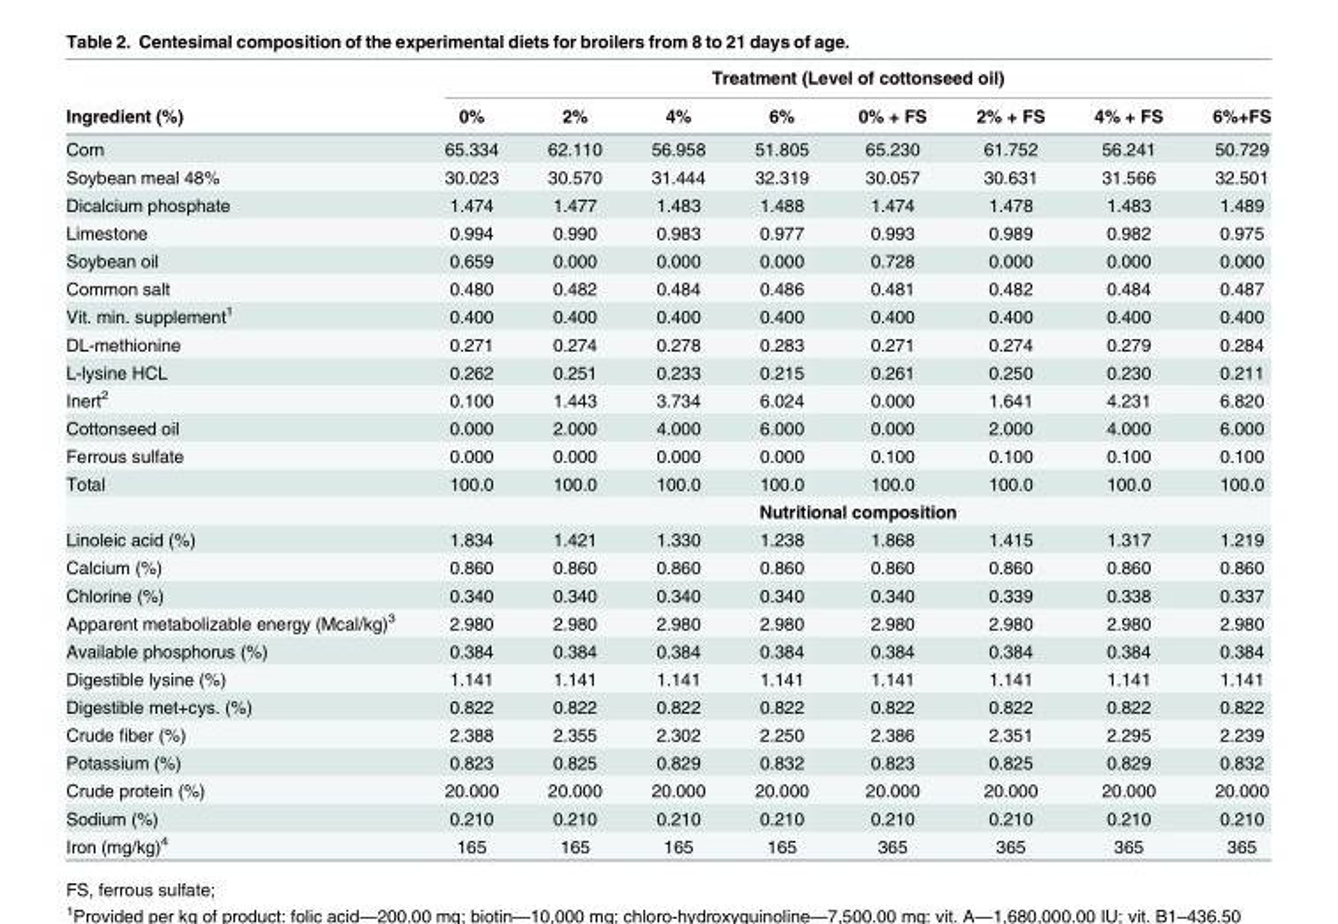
<table><thead><tr><td rowspan="2">Ingredient (%)</td><td colspan="8">Treatment (Level of cottonseed oil)</td></tr><tr><td>0%</td><td>2%</td><td>4%</td><td>6%</td><td>0% + FS</td><td>2% + FS</td><td>4% + FS</td><td>6%+FS</td></tr></thead><tbody><tr><td>Corn</td><td>65.334</td><td>62.110</td><td>56.958</td><td>51.805</td><td>65.230</td><td>61.752</td><td>56.241</td><td>50.729</td></tr><tr><td>Soybean meal 48%</td><td>30.023</td><td>30.570</td><td>31.444</td><td>32.319</td><td>30.057</td><td>30.631</td><td>31.566</td><td>32.501</td></tr><tr><td>Dicalcium phosphate</td><td>1.474</td><td>1.477</td><td>1.483</td><td>1.488</td><td>1.474</td><td>1.478</td><td>1.483</td><td>1.489</td></tr><tr><td>Limestone</td><td>0.994</td><td>0.990</td><td>0.983</td><td>0.977</td><td>0.993</td><td>0.989</td><td>0.982</td><td>0.975</td></tr><tr><td>Soybean oil</td><td>0.659</td><td>0.000</td><td>0.000</td><td>0.000</td><td>0.728</td><td>0.000</td><td>0.000</td><td>0.000</td></tr><tr><td>Common salt</td><td>0.480</td><td>0.482</td><td>0.484</td><td>0.486</td><td>0.481</td><td>0.482</td><td>0.484</td><td>0.487</td></tr><tr><td>Vit. min. supplement<sup>1</sup></td><td>0.400</td><td>0.400</td><td>0.400</td><td>0.400</td><td>0.400</td><td>0.400</td><td>0.400</td><td>0.400</td></tr><tr><td>DL-methionine</td><td>0.271</td><td>0.274</td><td>0.278</td><td>0.283</td><td>0.271</td><td>0.274</td><td>0.279</td><td>0.284</td></tr><tr><td>L-lysine HCL</td><td>0.262</td><td>0.251</td><td>0.233</td><td>0.215</td><td>0.261</td><td>0.250</td><td>0.230</td><td>0.211</td></tr><tr><td>Inert<sup>2</sup></td><td>0.100</td><td>1.443</td><td>3.734</td><td>6.024</td><td>0.000</td><td>1.641</td><td>4.231</td><td>6.820</td></tr><tr><td>Cottonseed oil</td><td>0.000</td><td>2.000</td><td>4.000</td><td>6.000</td><td>0.000</td><td>2.000</td><td>4.000</td><td>6.000</td></tr><tr><td>Ferrous sulfate</td><td>0.000</td><td>0.000</td><td>0.000</td><td>0.000</td><td>0.100</td><td>0.100</td><td>0.100</td><td>0.100</td></tr><tr><td rowspan="2">Total</td><td>100.0</td><td>100.0</td><td>100.0</td><td>100.0</td><td>100.0</td><td>100.0</td><td>100.0</td><td>100.0</td></tr><tr><td colspan="8">Nutritional composition</td></tr><tr><td>Linoleic acid (%)</td><td>1.834</td><td>1.421</td><td>1.330</td><td>1.238</td><td>1.868</td><td>1.415</td><td>1.317</td><td>1.219</td></tr><tr><td>Calcium (%)</td><td>0.860</td><td>0.860</td><td>0.860</td><td>0.860</td><td>0.860</td><td>0.860</td><td>0.860</td><td>0.860</td></tr><tr><td>Chlorine (%)</td><td>0.340</td><td>0.340</td><td>0.340</td><td>0.340</td><td>0.340</td><td>0.339</td><td>0.338</td><td>0.337</td></tr><tr><td>Apparent metabolizable energy (Mcal/kg)<sup>3</sup></td><td>2.980</td><td>2.980</td><td>2.980</td><td>2.980</td><td>2.980</td><td>2.980</td><td>2.980</td><td>2.980</td></tr><tr><td>Available phosphorus (%)</td><td>0.384</td><td>0.384</td><td>0.384</td><td>0.384</td><td>0.384</td><td>0.384</td><td>0.384</td><td>0.384</td></tr><tr><td>Digestible lysine (%)</td><td>1.141</td><td>1.141</td><td>1.141</td><td>1.141</td><td>1.141</td><td>1.141</td><td>1.141</td><td>1.141</td></tr><tr><td>Digestible met+cys. (%)</td><td>0.822</td><td>0.822</td><td>0.822</td><td>0.822</td><td>0.822</td><td>0.822</td><td>0.822</td><td>0.822</td></tr><tr><td>Crude fiber (%)</td><td>2.388</td><td>2.355</td><td>2.302</td><td>2.250</td><td>2.386</td><td>2.351</td><td>2.295</td><td>2.239</td></tr><tr><td>Potassium (%)</td><td>0.823</td><td>0.825</td><td>0.829</td><td>0.832</td><td>0.823</td><td>0.825</td><td>0.829</td><td>0.832</td></tr><tr><td>Crude protein (%)</td><td>20.000</td><td>20.000</td><td>20.000</td><td>20.000</td><td>20.000</td><td>20.000</td><td>20.000</td><td>20.000</td></tr><tr><td>Sodium (%)</td><td>0.210</td><td>0.210</td><td>0.210</td><td>0.210</td><td>0.210</td><td>0.210</td><td>0.210</td><td>0.210</td></tr><tr><td>Iron (mg/kg)<sup>4</sup></td><td>165</td><td>165</td><td>165</td><td>165</td><td>365</td><td>365</td><td>365</td><td>365</td></tr></tbody></table>